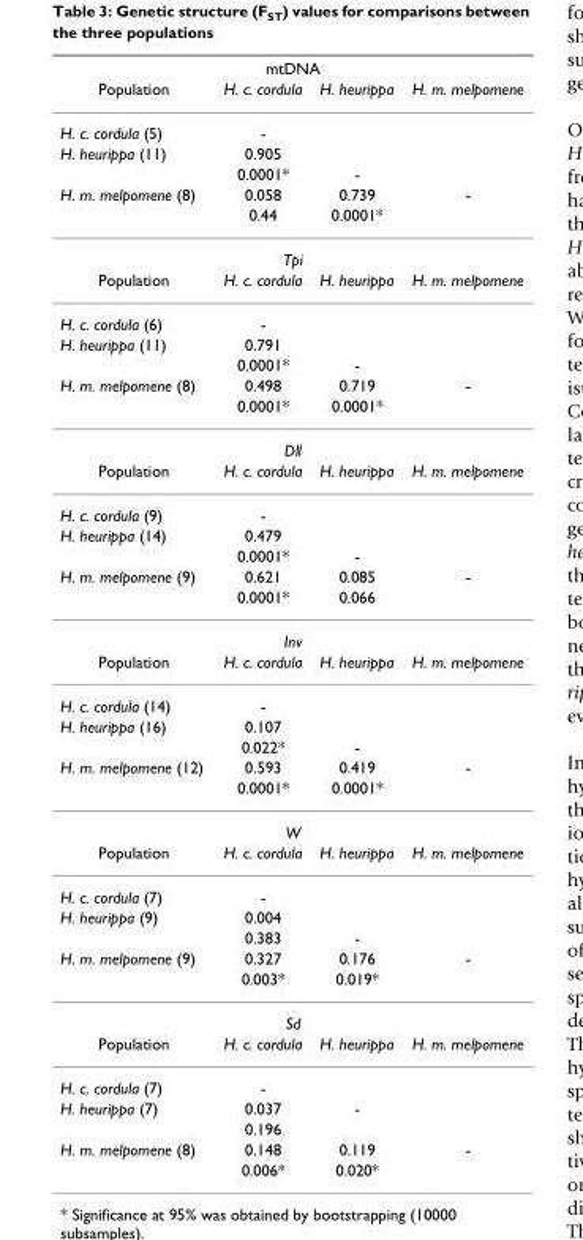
<table><thead><tr><td colspan="4">mtDNA</td></tr><tr><td>Population</td><td>H. c. cordula</td><td>H. heurippa</td><td>H. m. melpomene</td></tr></thead><tbody><tr><td>H. c. cordula (5)</td><td>-</td><td></td><td></td></tr><tr><td rowspan="2">H. heurippa (11)</td><td>0.905</td><td></td><td></td></tr><tr><td>0.0001*</td><td>-</td><td></td></tr><tr><td rowspan="2">H. m. melpomene (8)</td><td>0.058</td><td>0.739</td><td>-</td></tr><tr><td>0.44</td><td>0.0001*</td><td></td></tr><tr><td colspan="4">Tpi</td></tr><tr><td>Population</td><td>H. c. cordula</td><td>H. heurippa</td><td>H. m. melpomene</td></tr><tr><td>H. c. cordula (6)</td><td>-</td><td></td><td></td></tr><tr><td rowspan="2">H. heurippa (11)</td><td>0.791</td><td></td><td></td></tr><tr><td>0.0001*</td><td>-</td><td></td></tr><tr><td rowspan="2">H. m. melpomene (8)</td><td>0.498</td><td>0.719</td><td>-</td></tr><tr><td>0.0001*</td><td>0.0001*</td><td></td></tr><tr><td colspan="4">Dll</td></tr><tr><td>Population</td><td>H. c. cordula</td><td>H. heurippa</td><td>H. m. melpomene</td></tr><tr><td>H. c. cordula (9)</td><td>-</td><td></td><td></td></tr><tr><td rowspan="2">H. heurippa (14)</td><td>0.479</td><td></td><td></td></tr><tr><td>0.0001*</td><td>-</td><td></td></tr><tr><td rowspan="2">H. m. melpomene (9)</td><td>0.621</td><td>0.085</td><td>-</td></tr><tr><td>0.0001*</td><td>0.066</td><td></td></tr><tr><td colspan="4">Inv</td></tr><tr><td>Population</td><td>H. c. cordula</td><td>H. heurippa</td><td>H. m. melpomene</td></tr><tr><td>H. c. cordula (14)</td><td>-</td><td></td><td></td></tr><tr><td rowspan="2">H. heurippa (16)</td><td>0.107</td><td></td><td></td></tr><tr><td>0.022*</td><td>-</td><td></td></tr><tr><td rowspan="2">H. m. melpomene (12)</td><td>0.593</td><td>0.419</td><td>-</td></tr><tr><td>0.0001*</td><td>0.0001*</td><td></td></tr><tr><td colspan="4">W</td></tr><tr><td>Population</td><td>H. c. cordula</td><td>H. heurippa</td><td>H. m. melpomene</td></tr><tr><td>H. c. cordula (7)</td><td>-</td><td></td><td></td></tr><tr><td rowspan="2">H. heurippa (9)</td><td>0.004</td><td></td><td></td></tr><tr><td>0.383</td><td>-</td><td></td></tr><tr><td rowspan="2">H. m. melpomene (9)</td><td>0.327</td><td>0.176</td><td>-</td></tr><tr><td>0.003*</td><td>0.019*</td><td></td></tr><tr><td colspan="4">Sd</td></tr><tr><td>Population</td><td>H. c. cordula</td><td>H. heurippa</td><td>H. m. melpomene</td></tr><tr><td>H. c. cordula (7)</td><td>-</td><td></td><td></td></tr><tr><td rowspan="2">H. heurippa (7)</td><td>0.037</td><td>-</td><td></td></tr><tr><td>0.196</td><td></td><td></td></tr><tr><td rowspan="2">H. m. melpomene (8)</td><td>0.148</td><td>0.119</td><td>-</td></tr><tr><td>0.006*</td><td>0.020*</td><td></td></tr></tbody></table>